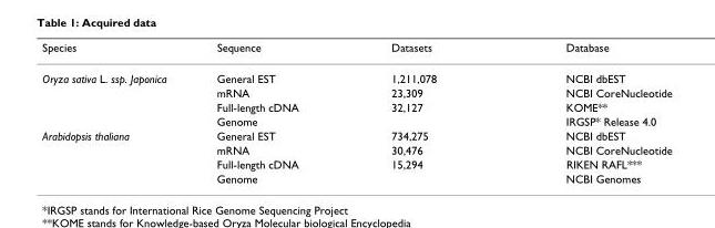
<table><thead><tr><td>Species</td><td>Sequence</td><td>Datasets</td><td>Database</td></tr></thead><tbody><tr><td rowspan="4">Oryza sativa L. ssp. Japonica</td><td>General EST</td><td>1,211,078</td><td>NCBI dbEST</td></tr><tr><td>mRNA</td><td>23,309</td><td>NCBI CoreNucleotide</td></tr><tr><td>Full-length cDNA</td><td>32,127</td><td>KOME**</td></tr><tr><td>Genome</td><td></td><td>IRGSP* Release 4.0</td></tr><tr><td rowspan="4">Arabidopsis thaliana</td><td>General EST</td><td>734,275</td><td>NCBI dbEST</td></tr><tr><td>mRNA</td><td>30,476</td><td>NCBI CoreNucleotide</td></tr><tr><td>Full-length cDNA</td><td>15,294</td><td>RIKEN RAFL***</td></tr><tr><td>Genome</td><td></td><td>NCBI Genomes</td></tr></tbody></table>